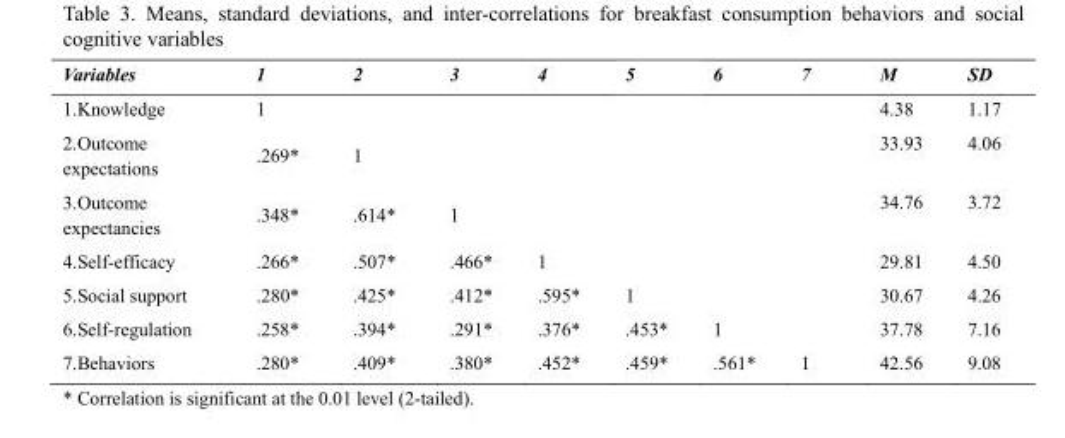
<table><thead><tr><td>Variables</td><td>1</td><td>2</td><td>3</td><td>4</td><td>5</td><td>6</td><td>7</td><td>M</td><td>SD</td></tr></thead><tbody><tr><td>1.Knowledge</td><td>1</td><td></td><td></td><td></td><td></td><td></td><td></td><td>4.38</td><td>1.17</td></tr><tr><td>2.Outcome expectations</td><td>.269*</td><td>1</td><td></td><td></td><td></td><td></td><td></td><td>33.93</td><td>4.06</td></tr><tr><td>3.Outcome expectancies</td><td>.348*</td><td>.614*</td><td>1</td><td></td><td></td><td></td><td></td><td>34.76</td><td>3.72</td></tr><tr><td>4.Self-efficacy</td><td>.266*</td><td>.507*</td><td>.466*</td><td>1</td><td></td><td></td><td></td><td>29.81</td><td>4.50</td></tr><tr><td>5.Social support</td><td>.280*</td><td>.425*</td><td>.412*</td><td>.595*</td><td>1</td><td></td><td></td><td>30.67</td><td>4.26</td></tr><tr><td>6.Self-regulation</td><td>.258*</td><td>.394*</td><td>.291*</td><td>.376*</td><td>.453*</td><td>1</td><td></td><td>37.78</td><td>7.16</td></tr><tr><td>7.Behaviors</td><td>.280*</td><td>.409*</td><td>.380*</td><td>.452*</td><td>.459*</td><td>.561*</td><td>1</td><td>42.56</td><td>9.08</td></tr></tbody></table>